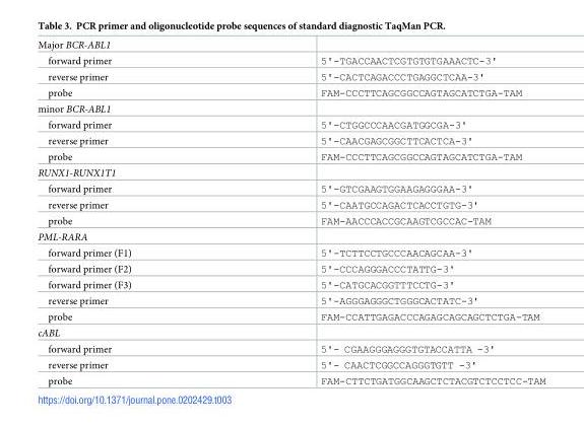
<table><tbody><tr><td colspan="2">Major BCR-ABL1</td></tr><tr><td>forward primer</td><td>5&#x27;-TGACCAACTCGTGTGTGAAACTC-3&#x27;</td></tr><tr><td>reverse primer</td><td>5&#x27;-CACTCAGACCCTGAGGCTCAA-3&#x27;</td></tr><tr><td>probe</td><td>FAM-CCCTTCAGCGGCCAGTAGCATCTGA-TAM</td></tr><tr><td colspan="2">minor BCR-ABL1</td></tr><tr><td>forward primer</td><td>5&#x27;-CTGGCCCAACGATGGCGA-3&#x27;</td></tr><tr><td>reverse primer</td><td>5&#x27;-CAACGAGCGGCTTCACTCA-3&#x27;</td></tr><tr><td>probe</td><td>FAM-CCCTTCAGCGGCCAGTAGCATCTGA-TAM</td></tr><tr><td colspan="2">RUNX1-RUNX1T1</td></tr><tr><td>forward primer</td><td>5&#x27;-GTCGAAGTGGAAGAGGGAA-3&#x27;</td></tr><tr><td>reverse primer</td><td>5&#x27;-CAATGCCAGACTCACCTGTG-3&#x27;</td></tr><tr><td>probe</td><td>FAM-AACCCACCGCAAGTCGCCAC-TAM</td></tr><tr><td colspan="2">PML-RARA</td></tr><tr><td>forward primer (F1)</td><td>5&#x27;-TCTTCCTGCCCAACAGCAA-3&#x27;</td></tr><tr><td>forward primer (F2)</td><td>5&#x27;-CCCAGGGACCCTATTG-3&#x27;</td></tr><tr><td>forward primer (F3)</td><td>5&#x27;-CATGCACGGTTTCCTG-3&#x27;</td></tr><tr><td>reverse primer</td><td>5&#x27;-AGGGAGGGCTGGGCACTATC-3&#x27;</td></tr><tr><td>probe</td><td>FAM-CCATTGAGACCCAGAGCAGCAGCTCTGA-TAM</td></tr><tr><td colspan="2">cABL</td></tr><tr><td>forward primer</td><td>5&#x27;- CGAAGGGAGGGTGTACCATTA -3&#x27;</td></tr><tr><td>reverse primer</td><td>5&#x27;- CAACTCGGCCAGGGTGTT -3&#x27;</td></tr><tr><td>probe</td><td>FAM-CTTCTGATGGCAAGCTCTACGTCTCCTCC-TAM</td></tr></tbody></table>